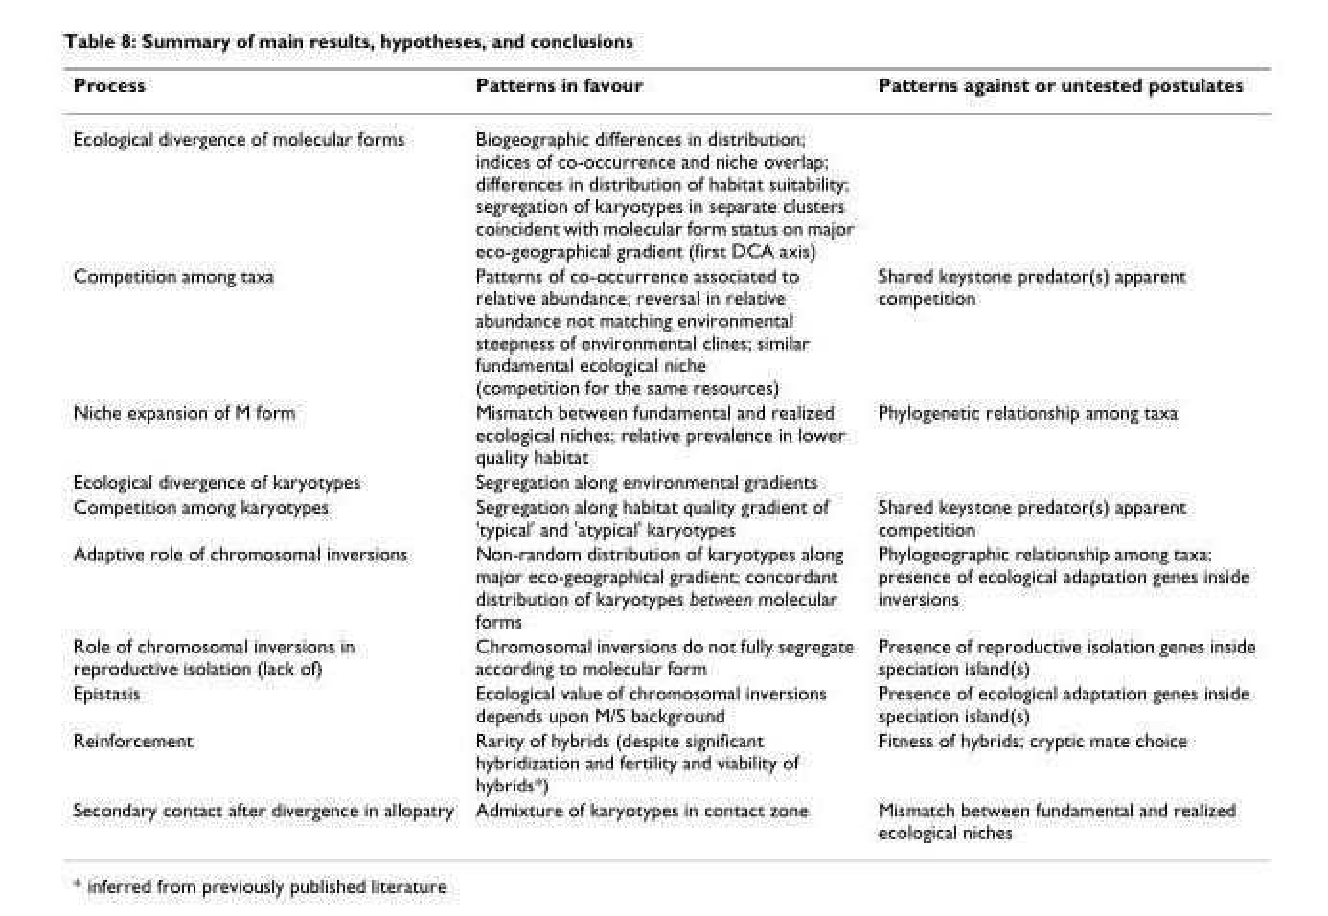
<table><thead><tr><td>Process</td><td>Patterns in favour</td><td>Patterns against or untested postulates</td></tr></thead><tbody><tr><td>Ecological divergence of molecular forms</td><td>Biogeographic differences in distribution; indices of co-occurrence and niche overlap; differences in distribution of habitat suitability; segregation of karyotypes in separate clusters coincident with molecular form status on major eco-geographical gradient (first DCA axis)</td><td></td></tr><tr><td>Competition among taxa</td><td>Patterns of co-occurrence associated to relative abundance; reversal in relative abundance not matching environmental steepness of environmental clines; similar fundamental ecological niche (competition for the same resources)</td><td>Shared keystone predator(s) apparent competition</td></tr><tr><td>Niche expansion of M form</td><td>Mismatch between fundamental and realized ecological niches; relative prevalence in lower quality habitat</td><td>Phylogenetic relationship among taxa</td></tr><tr><td>Ecological divergence of karyotypes</td><td>Segregation along environmental gradients</td><td></td></tr><tr><td>Competition among karyotypes</td><td>Segregation along habitat quality gradient of &#x27;typical&#x27; and &#x27;atypical&#x27; karyotypes</td><td>Shared keystone predator(s) apparent competition</td></tr><tr><td>Adaptive role of chromosomal inversions</td><td>Non-random distribution of karyotypes along major eco-geographical gradient; concordant distribution of karyotypes between molecular forms</td><td>Phylogeographic relationship among taxa; presence of ecological adaptation genes inside inversions</td></tr><tr><td>Role of chromosomal inversions in reproductive isolation (lack of)</td><td>Chromosomal inversions do not fully segregate according to molecular form</td><td>Presence of reproductive isolation genes inside speciation island(s)</td></tr><tr><td>Epistasis</td><td>Ecological value of chromosomal inversions depends upon M/S background</td><td>Presence of ecological adaptation genes inside speciation island(s)</td></tr><tr><td>Reinforcement</td><td>Rarity of hybrids (despite significant hybridization and fertility and viability of hybrids*)</td><td>Fitness of hybrids; cryptic mate choice</td></tr><tr><td>Secondary contact after divergence in allopatry</td><td>Admixture of karyotypes in contact zone</td><td>Mismatch between fundamental and realized ecological niches</td></tr></tbody></table>